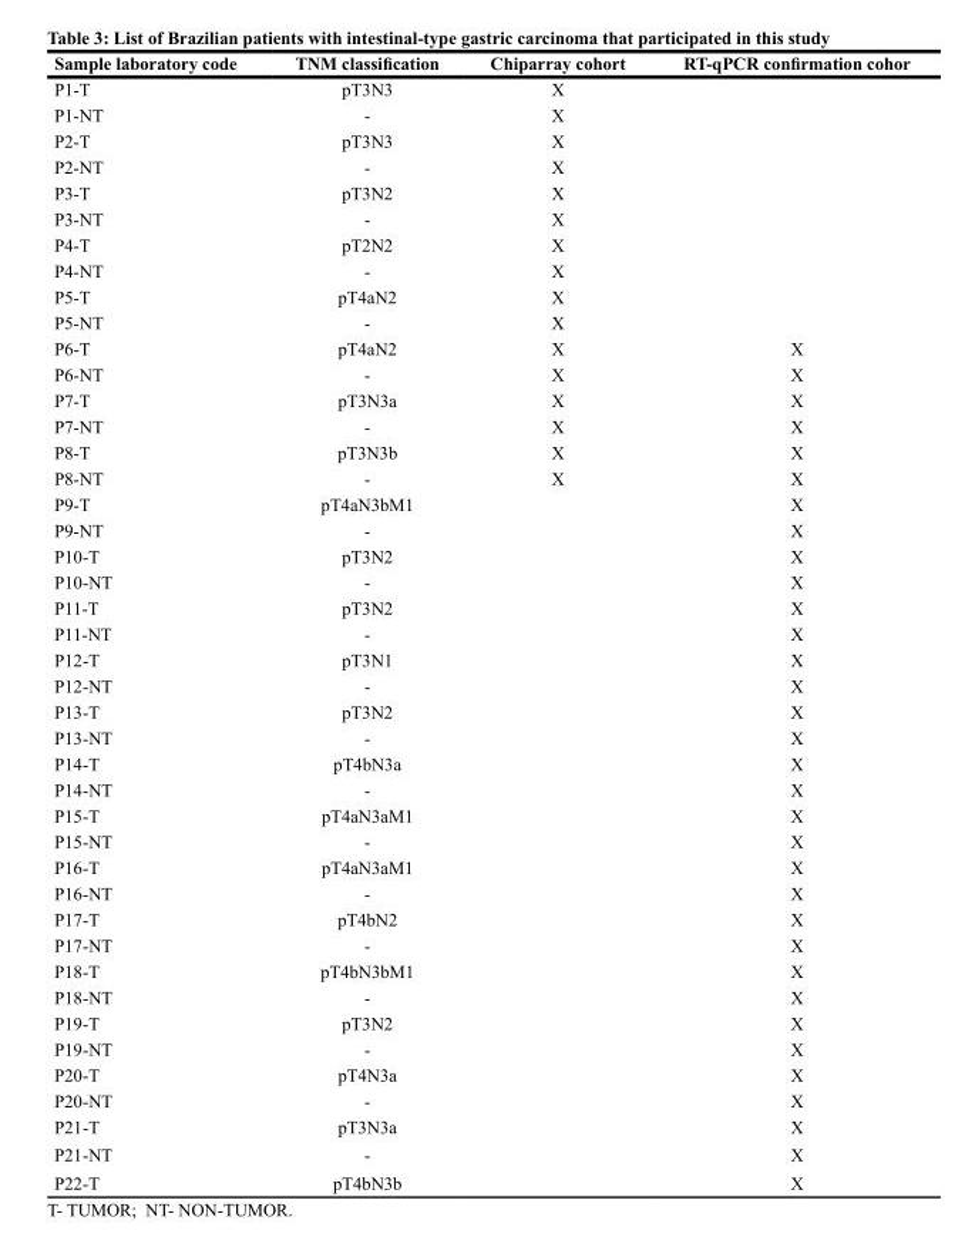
<table><thead><tr><td>Sample laboratory code</td><td>TNM classification</td><td>Chiparray cohort</td><td>RT-qPCR confirmation cohor</td></tr></thead><tbody><tr><td>P1-T</td><td>pT3N3</td><td>X</td><td></td></tr><tr><td>P1-NT</td><td>-</td><td>X</td><td></td></tr><tr><td>P2-T</td><td>pT3N3</td><td>X</td><td></td></tr><tr><td>P2-NT</td><td>-</td><td>X</td><td></td></tr><tr><td>P3-T</td><td>pT3N2</td><td>X</td><td></td></tr><tr><td>P3-NT</td><td>-</td><td>X</td><td></td></tr><tr><td>P4-T</td><td>pT2N2</td><td>X</td><td></td></tr><tr><td>P4-NT</td><td>-</td><td>X</td><td></td></tr><tr><td>P5-T</td><td>pT4aN2</td><td>X</td><td></td></tr><tr><td>P5-NT</td><td>-</td><td>X</td><td></td></tr><tr><td>P6-T</td><td>pT4aN2</td><td>X</td><td>X</td></tr><tr><td>P6-NT</td><td>-</td><td>X</td><td>X</td></tr><tr><td>P7-T</td><td>pT3N3a</td><td>X</td><td>X</td></tr><tr><td>P7-NT</td><td>-</td><td>X</td><td>X</td></tr><tr><td>P8-T</td><td>pT3N3b</td><td>X</td><td>X</td></tr><tr><td>P8-NT</td><td>-</td><td>X</td><td>X</td></tr><tr><td>P9-T</td><td>pT4aN3bM1</td><td></td><td>X</td></tr><tr><td>P9-NT</td><td>-</td><td></td><td>X</td></tr><tr><td>P10-T</td><td>pT3N2</td><td></td><td>X</td></tr><tr><td>P10-NT</td><td>-</td><td></td><td>X</td></tr><tr><td>P11-T</td><td>pT3N2</td><td></td><td>X</td></tr><tr><td>P11-NT</td><td>-</td><td></td><td>X</td></tr><tr><td>P12-T</td><td>pT3N1</td><td></td><td>X</td></tr><tr><td>P12-NT</td><td>-</td><td></td><td>X</td></tr><tr><td>P13-T</td><td>pT3N2</td><td></td><td>X</td></tr><tr><td>P13-NT</td><td>-</td><td></td><td>X</td></tr><tr><td>P14-T</td><td>pT4bN3a</td><td></td><td>X</td></tr><tr><td>P14-NT</td><td>-</td><td></td><td>X</td></tr><tr><td>P15-T</td><td>pT4aN3aM1</td><td></td><td>X</td></tr><tr><td>P15-NT</td><td>-</td><td></td><td>X</td></tr><tr><td>P16-T</td><td>pT4aN3aM1</td><td></td><td>X</td></tr><tr><td>P16-NT</td><td>-</td><td></td><td>X</td></tr><tr><td>P17-T</td><td>pT4bN2</td><td></td><td>X</td></tr><tr><td>P17-NT</td><td>-</td><td></td><td>X</td></tr><tr><td>P18-T</td><td>pT4bN3bM1</td><td></td><td>X</td></tr><tr><td>P18-NT</td><td>-</td><td></td><td>X</td></tr><tr><td>P19-T</td><td>pT3N2</td><td></td><td>X</td></tr><tr><td>P19-NT</td><td>-</td><td></td><td>X</td></tr><tr><td>P20-T</td><td>pT4N3a</td><td></td><td>X</td></tr><tr><td>P20-NT</td><td>-</td><td></td><td>X</td></tr><tr><td>P21-T</td><td>pT3N3a</td><td></td><td>X</td></tr><tr><td>P21-NT</td><td>-</td><td></td><td>X</td></tr><tr><td>P22-T</td><td>pT4bN3b</td><td></td><td>X</td></tr></tbody></table>